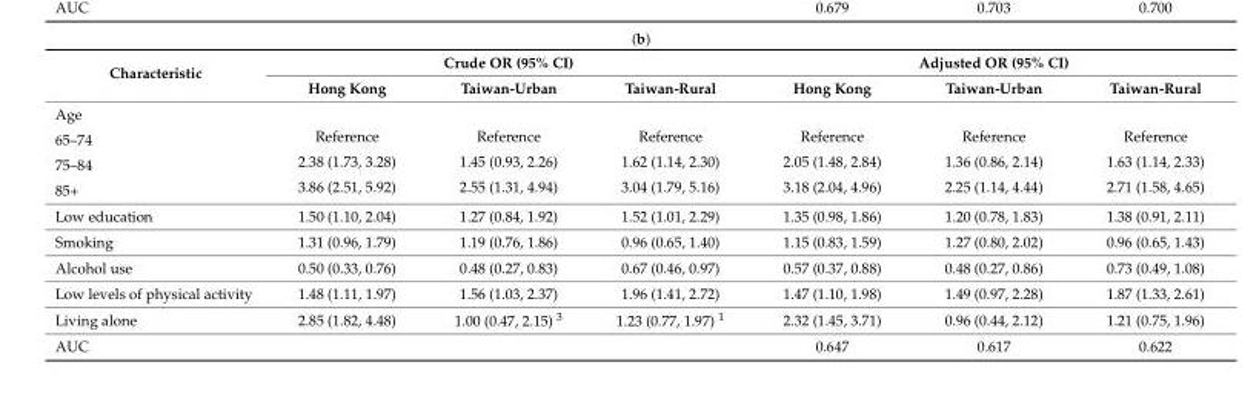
<table><thead><tr><td rowspan="2">Characteristic</td><td colspan="3">Crude OR (95% CI)</td><td colspan="3">Adjusted OR (95% CI)</td></tr><tr><td>Hong Kong</td><td>Taiwan-Urban</td><td>Taiwan-Rural</td><td>Hong Kong</td><td>Taiwan-Urban</td><td>Taiwan-Rural</td></tr></thead><tbody><tr><td colspan="7">Age</td></tr><tr><td>65–74</td><td>Reference</td><td>Reference</td><td>Reference</td><td>Reference</td><td>Reference</td><td>Reference</td></tr><tr><td>75–84</td><td>2.38 (1.73, 3.28)</td><td>1.45 (0.93, 2.26)</td><td>1.62 (1.14, 2.30)</td><td>2.05 (1.48, 2.84)</td><td>1.36 (0.86, 2.14)</td><td>1.63 (1.14, 2.33)</td></tr><tr><td>85+</td><td>3.86 (2.51, 5.92)</td><td>2.55 (1.31, 4.94)</td><td>3.04 (1.79, 5.16)</td><td>3.18 (2.04, 4.96)</td><td>2.25 (1.14, 4.44)</td><td>2.71 (1.58, 4.65)</td></tr><tr><td>Low education</td><td>1.50 (1.10, 2.04)</td><td>1.27 (0.84, 1.92)</td><td>1.52 (1.01, 2.29)</td><td>1.35 (0.98, 1.86)</td><td>1.20 (0.78, 1.83)</td><td>1.38 (0.91, 2.11)</td></tr><tr><td>Smoking</td><td>1.31 (0.96, 1.79)</td><td>1.19 (0.76, 1.86)</td><td>0.96 (0.65, 1.40)</td><td>1.15 (0.83, 1.59)</td><td>1.27 (0.80, 2.02)</td><td>0.96 (0.65, 1.43)</td></tr><tr><td>Alcohol use</td><td>0.50 (0.33, 0.76)</td><td>0.48 (0.27, 0.83)</td><td>0.67 (0.46, 0.97)</td><td>0.57 (0.37, 0.88)</td><td>0.48 (0.27, 0.86)</td><td>0.73 (0.49, 1.08)</td></tr><tr><td>Low levels of physical activity</td><td>1.48 (1.11, 1.97)</td><td>1.56 (1.03, 2.37)</td><td>1.96 (1.41, 2.72)</td><td>1.47 (1.10, 1.98)</td><td>1.49 (0.97, 2.28)</td><td>1.87 (1.33, 2.61)</td></tr><tr><td>Living alone</td><td>2.85 (1.82, 4.48)</td><td>1.00 (0.47, 2.15) <sup>3</sup></td><td>1.23 (0.77, 1.97) <sup>1</sup></td><td>2.32 (1.45, 3.71)</td><td>0.96 (0.44, 2.12)</td><td>1.21 (0.75, 1.96)</td></tr><tr><td>AUC</td><td></td><td></td><td></td><td>0.647</td><td>0.617</td><td>0.622</td></tr></tbody></table>